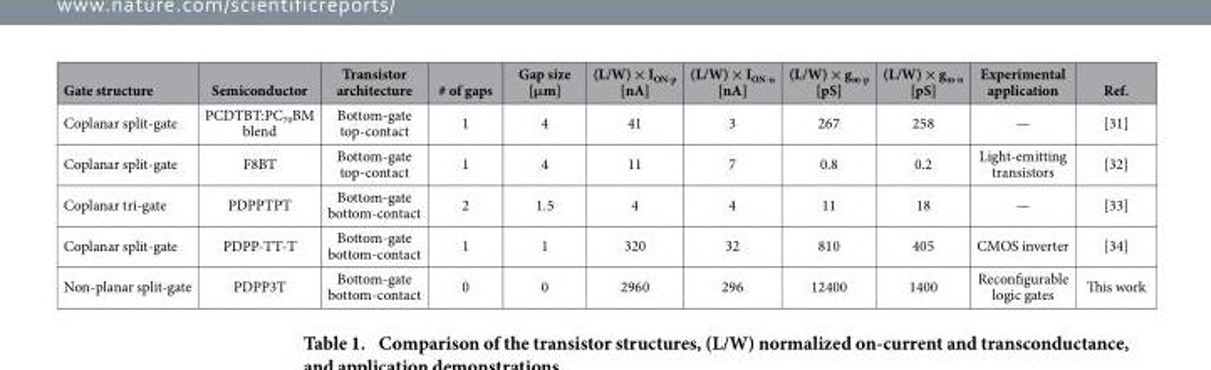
<table><thead><tr><td>Gate structure</td><td>Semiconductor</td><td>Transistor architecture</td><td># of gaps</td><td>Gap size [μm]</td><td>(L/W) × I<sub>ON-p</sub> [nA]</td><td>(L/W) × I<sub>ON-n</sub> [nA]</td><td>(L/W) × g<sub>m-p</sub> [pS]</td><td>(L/W) × g<sub>m-n</sub> [pS]</td><td>Experimental application</td><td>Ref.</td></tr></thead><tbody><tr><td>Coplanar split-gate</td><td>PCDTBT:PC<sub>70</sub>BM blend</td><td>Bottom-gate top-contact</td><td>1</td><td>4</td><td>41</td><td>3</td><td>267</td><td>258</td><td>—</td><td>[31]</td></tr><tr><td>Coplanar split-gate</td><td>F8BT</td><td>Bottom-gate top-contact</td><td>1</td><td>4</td><td>11</td><td>7</td><td>0.8</td><td>0.2</td><td>Light-emitting transistors</td><td>[32]</td></tr><tr><td>Coplanar tri-gate</td><td>PDPPTPT</td><td>Bottom-gate bottom-contact</td><td>2</td><td>1.5</td><td>4</td><td>4</td><td>11</td><td>18</td><td>—</td><td>[33]</td></tr><tr><td>Coplanar split-gate</td><td>PDPP-TT-T</td><td>Bottom-gate bottom-contact</td><td>1</td><td>1</td><td>320</td><td>32</td><td>810</td><td>405</td><td>CMOS inverter</td><td>[34]</td></tr><tr><td>Non-planar split-gate</td><td>PDPP3T</td><td>Bottom-gate bottom-contact</td><td>0</td><td>0</td><td>2960</td><td>296</td><td>12400</td><td>1400</td><td>Reconfigurable logic gates</td><td>This work</td></tr></tbody></table>